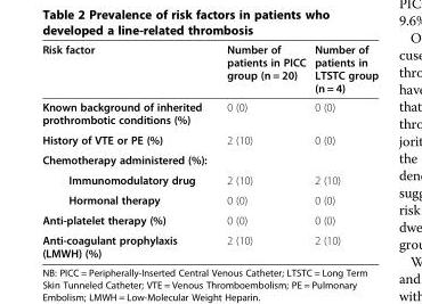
<table><thead><tr><td>Risk factor</td><td>Number of patients in PICC group (n = 20)</td><td>Number of patients in LTSTC group (n = 4)</td></tr></thead><tbody><tr><td>Known background of inherited prothrombotic conditions (%)</td><td>0 (0)</td><td>0 (0)</td></tr><tr><td>History of VTE or PE (%)</td><td>2 (10)</td><td>0 (0)</td></tr><tr><td colspan="3">Chemotherapy administered (%):</td></tr><tr><td>Immunomodulatory drug</td><td>2 (10)</td><td>2 (10)</td></tr><tr><td>Hormonal therapy</td><td>0 (0)</td><td>0 (0)</td></tr><tr><td>Anti-platelet therapy (%)</td><td>0 (0)</td><td>0 (0)</td></tr><tr><td>Anti-coagulant prophylaxis (LMWH) (%)</td><td>2 (10)</td><td>2 (10)</td></tr></tbody></table>